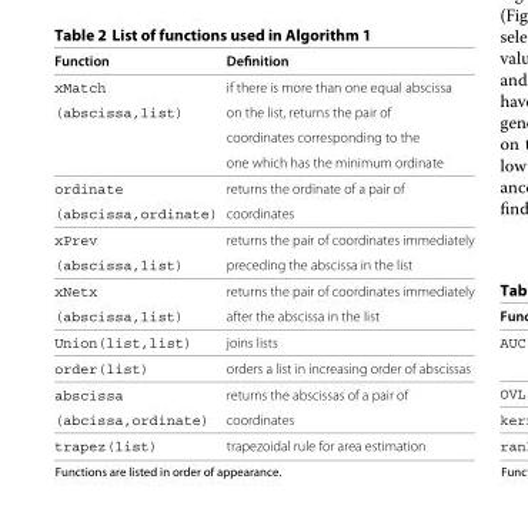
<table><thead><tr><td>Function</td><td>Definition</td></tr></thead><tbody><tr><td>xMatch</td><td>if there is more than one equal abscissa</td></tr><tr><td rowspan="3">(abscissa,list)</td><td>on the list, returns the pair of</td></tr><tr><td>coordinates corresponding to the</td></tr><tr><td>one which has the minimum ordinate</td></tr><tr><td>ordinate</td><td>returns the ordinate of a pair of</td></tr><tr><td>(abscissa,ordinate)</td><td>coordinates</td></tr><tr><td>xPrev</td><td>returns the pair of coordinates immediately</td></tr><tr><td>(abscissa,list)</td><td>preceding the abscissa in the list</td></tr><tr><td>xNetx</td><td>returns the pair of coordinates immediately</td></tr><tr><td>(abscissa,list)</td><td>after the abscissa in the list</td></tr><tr><td>Union(list,list)</td><td>joins lists</td></tr><tr><td>order(list)</td><td>orders a list in increasing order of abscissas</td></tr><tr><td>abscissa</td><td>returns the abscissas of a pair of</td></tr><tr><td>(abcissa,ordinate)</td><td>coordinates</td></tr><tr><td>trapez(list)</td><td>trapezoidal rule for area estimation</td></tr></tbody></table>